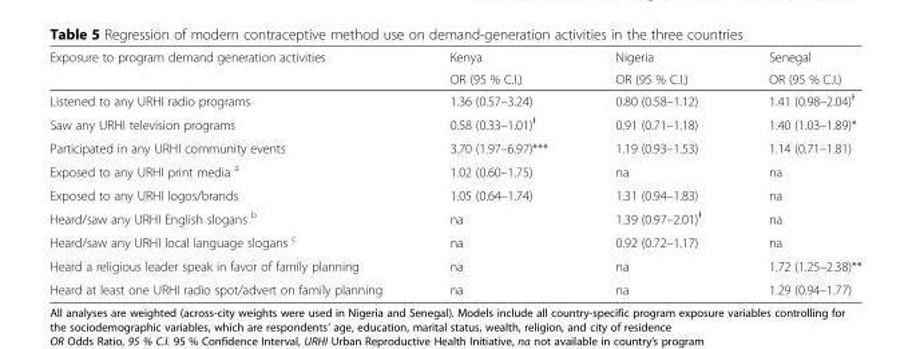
<table><thead><tr><td rowspan="2">Exposure to program demand generation activities</td><td rowspan="2">Kenya OR (95 % C.I.)</td><td rowspan="2">Nigeria OR (95 % C.I.)</td><td rowspan="2">Senegal OR (95 % C.I.)</td></tr><tr></tr></thead><tbody><tr><td>Listened to any URHI radio programs</td><td>1.36 (0.57–3.24)</td><td>0.80 (0.58–1.12)</td><td>1.41 (0.98–2.04)<sup>Ɨ</sup></td></tr><tr><td>Saw any URHI television programs</td><td>0.58 (0.33–1.01)<sup>Ɨ</sup></td><td>0.91 (0.71–1.18)</td><td>1.40 (1.03–1.89)*</td></tr><tr><td>Participated in any URHI community events</td><td>3.70 (1.97–6.97)***</td><td>1.19 (0.93–1.53)</td><td>1.14 (0.71–1.81)</td></tr><tr><td>Exposed to any URHI print media <sup>a</sup></td><td>1.02 (0.60–1.75)</td><td>na</td><td>na</td></tr><tr><td>Exposed to any URHI logos/brands</td><td>1.05 (0.64–1.74)</td><td>1.31 (0.94–1.83)</td><td>na</td></tr><tr><td>Heard/saw any URHI English slogans <sup>b</sup></td><td>na</td><td>1.39 (0.97–2.01)<sup>Ɨ</sup></td><td>na</td></tr><tr><td>Heard/saw any URHI local language slogans <sup>c</sup></td><td>na</td><td>0.92 (0.72–1.17)</td><td>na</td></tr><tr><td>Heard a religious leader speak in favor of family planning</td><td>na</td><td>na</td><td>1.72 (1.25–2.38)**</td></tr><tr><td>Heard at least one URHI radio spot/advert on family planning</td><td>na</td><td>na</td><td>1.29 (0.94–1.77)</td></tr></tbody></table>